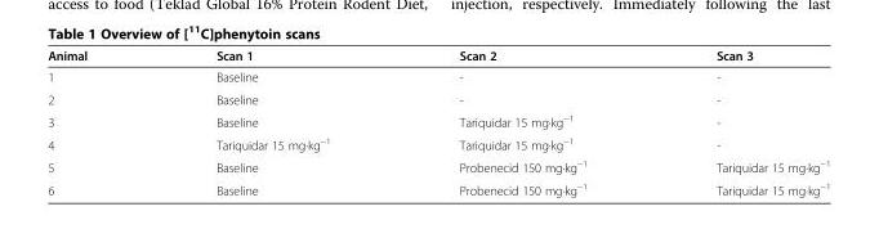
<table><thead><tr><td>Animal</td><td>Scan 1</td><td>Scan 2</td><td>Scan 3</td></tr></thead><tbody><tr><td>1</td><td>Baseline</td><td>-</td><td>-</td></tr><tr><td>2</td><td>Baseline</td><td>-</td><td>-</td></tr><tr><td>3</td><td>Baseline</td><td>Tariquidar 15 mg·kg<sup>−1</sup></td><td>-</td></tr><tr><td>4</td><td>Tariquidar 15 mg·kg<sup>−1</sup></td><td>Tariquidar 15 mg·kg<sup>−1</sup></td><td>-</td></tr><tr><td>5</td><td>Baseline</td><td>Probenecid 150 mg·kg<sup>−1</sup></td><td>Tariquidar 15 mg·kg<sup>−1</sup></td></tr><tr><td>6</td><td>Baseline</td><td>Probenecid 150 mg·kg<sup>−1</sup></td><td>Tariquidar 15 mg·kg<sup>−1</sup></td></tr></tbody></table>